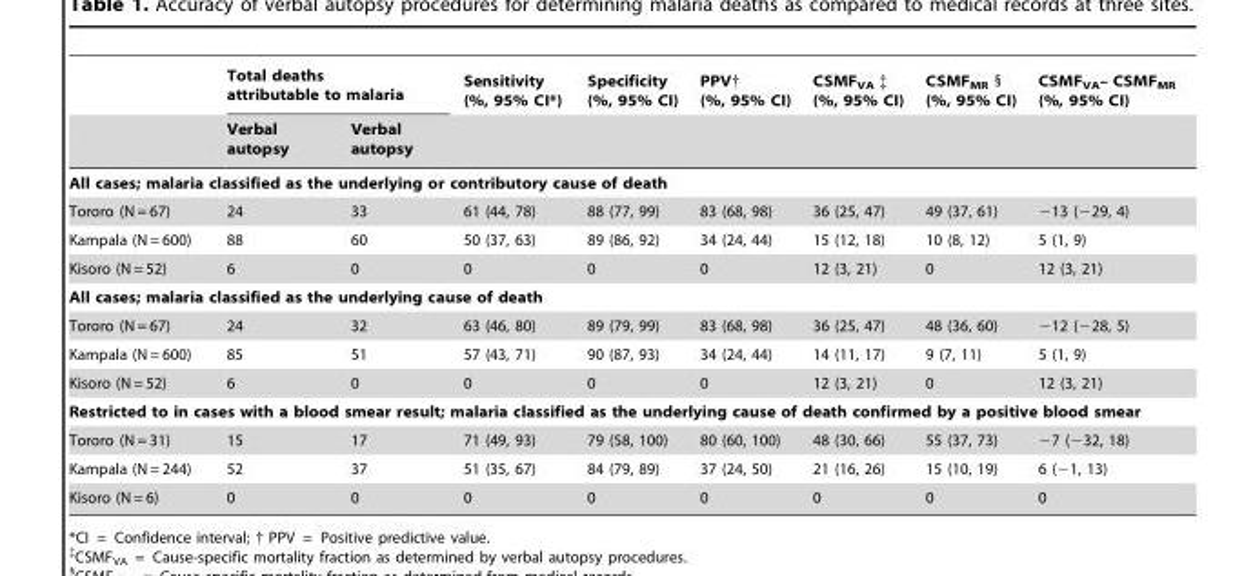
<table><thead><tr><td rowspan="2"></td><td colspan="2">Total deaths attributable to malaria</td><td rowspan="2">Sensitivity (%, 95% CI*)</td><td rowspan="2">Specificity (%, 95% CI)</td><td rowspan="2">PPV† (%, 95% CI)</td><td rowspan="2">CSMF<sub>VA</sub> ‡ (%, 95% CI)</td><td rowspan="2">CSMF<sub>MR</sub> § (%, 95% CI)</td><td rowspan="2">CSMF<sub>VA</sub>– CSMF<sub>MR</sub> (%, 95% CI)</td></tr><tr><td>Verbal autopsy</td><td>Verbal autopsy</td></tr></thead><tbody><tr><td colspan="9">All cases; malaria classified as the underlying or contributory cause of death</td></tr><tr><td>Tororo (N = 67)</td><td>24</td><td>33</td><td>61 (44, 78)</td><td>88 (77, 99)</td><td>83 (68, 98)</td><td>36 (25, 47)</td><td>49 (37, 61)</td><td>−13 (−29, 4)</td></tr><tr><td>Kampala (N = 600)</td><td>88</td><td>60</td><td>50 (37, 63)</td><td>89 (86, 92)</td><td>34 (24, 44)</td><td>15 (12, 18)</td><td>10 (8, 12)</td><td>5 (1, 9)</td></tr><tr><td>Kisoro (N = 52)</td><td>6</td><td>0</td><td>0</td><td>0</td><td>0</td><td>12 (3, 21)</td><td>0</td><td>12 (3, 21)</td></tr><tr><td colspan="9">All cases; malaria classified as the underlying cause of death</td></tr><tr><td>Tororo (N = 67)</td><td>24</td><td>32</td><td>63 (46, 80)</td><td>89 (79, 99)</td><td>83 (68, 98)</td><td>36 (25, 47)</td><td>48 (36, 60)</td><td>−12 (−28, 5)</td></tr><tr><td>Kampala (N = 600)</td><td>85</td><td>51</td><td>57 (43, 71)</td><td>90 (87, 93)</td><td>34 (24, 44)</td><td>14 (11, 17)</td><td>9 (7, 11)</td><td>5 (1, 9)</td></tr><tr><td>Kisoro (N = 52)</td><td>6</td><td>0</td><td>0</td><td>0</td><td>0</td><td>12 (3, 21)</td><td>0</td><td>12 (3, 21)</td></tr><tr><td colspan="9">Restricted to in cases with a blood smear result; malaria classified as the underlying cause of death confirmed by a positive blood smear</td></tr><tr><td>Tororo (N = 31)</td><td>15</td><td>17</td><td>71 (49, 93)</td><td>79 (58, 100)</td><td>80 (60, 100)</td><td>48 (30, 66)</td><td>55 (37, 73)</td><td>−7 (−32, 18)</td></tr><tr><td>Kampala (N = 244)</td><td>52</td><td>37</td><td>51 (35, 67)</td><td>84 (79, 89)</td><td>37 (24, 50)</td><td>21 (16, 26)</td><td>15 (10, 19)</td><td>6 (−1, 13)</td></tr><tr><td>Kisoro (N = 6)</td><td>0</td><td>0</td><td>0</td><td>0</td><td>0</td><td>0</td><td>0</td><td>0</td></tr></tbody></table>